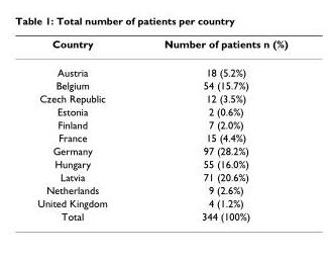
<table><thead><tr><td>Country</td><td>Number of patients n (%)</td></tr></thead><tbody><tr><td>Austria</td><td>18 (5.2%)</td></tr><tr><td>Belgium</td><td>54 (15.7%)</td></tr><tr><td>Czech Republic</td><td>12 (3.5%)</td></tr><tr><td>Estonia</td><td>2 (0.6%)</td></tr><tr><td>Finland</td><td>7 (2.0%)</td></tr><tr><td>France</td><td>15 (4.4%)</td></tr><tr><td>Germany</td><td>97 (28.2%)</td></tr><tr><td>Hungary</td><td>55 (16.0%)</td></tr><tr><td>Latvia</td><td>71 (20.6%)</td></tr><tr><td>Netherlands</td><td>9 (2.6%)</td></tr><tr><td>United Kingdom</td><td>4 (1.2%)</td></tr><tr><td>Total</td><td>344 (100%)</td></tr></tbody></table>